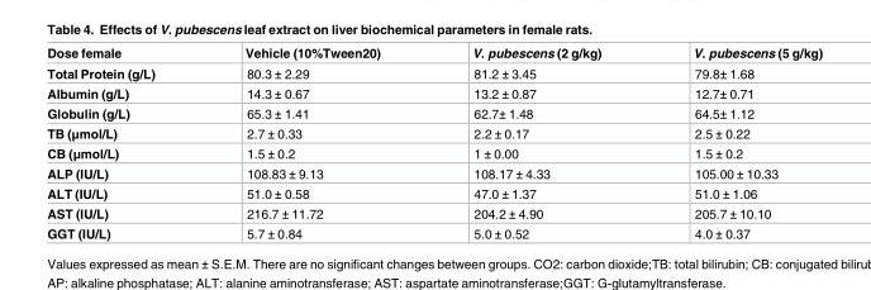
<table><thead><tr><td>Dose female</td><td>Vehicle (10%Tween20)</td><td>V. pubescens (2 g/kg)</td><td>V. pubescens (5 g/kg)</td></tr></thead><tbody><tr><td>Total Protein (g/L)</td><td>80.3 ± 2.29</td><td>81.2 ± 3.45</td><td>79.8± 1.68</td></tr><tr><td>Albumin (g/L)</td><td>14.3 ± 0.67</td><td>13.2 ± 0.87</td><td>12.7± 0.71</td></tr><tr><td>Globulin (g/L)</td><td>65.3 ± 1.41</td><td>62.7± 1.48</td><td>64.5± 1.12</td></tr><tr><td>TB (μmol/L)</td><td>2.7 ± 0.33</td><td>2.2 ± 0.17</td><td>2.5 ± 0.22</td></tr><tr><td>CB (μmol/L)</td><td>1.5 ± 0.2</td><td>1 ± 0.00</td><td>1.5 ± 0.2</td></tr><tr><td>ALP (IU/L)</td><td>108.83 ± 9.13</td><td>108.17 ± 4.33</td><td>105.00 ± 10.33</td></tr><tr><td>ALT (IU/L)</td><td>51.0 ± 0.58</td><td>47.0 ± 1.37</td><td>51.0 ± 1.06</td></tr><tr><td>AST (IU/L)</td><td>216.7 ± 11.72</td><td>204.2 ± 4.90</td><td>205.7 ± 10.10</td></tr><tr><td>GGT (IU/L)</td><td>5.7 ± 0.84</td><td>5.0 ± 0.52</td><td>4.0 ± 0.37</td></tr></tbody></table>